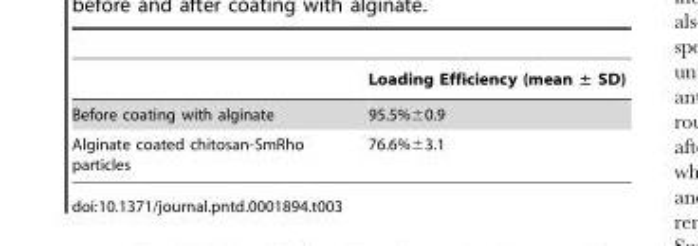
<table><thead><tr><td></td><td>Loading Efficiency (mean ± SD)</td></tr></thead><tbody><tr><td>Before coating with alginate</td><td>95.5%±0.9</td></tr><tr><td>Alginate coated chitosan-SmRho particles</td><td>76.6%±3.1</td></tr></tbody></table>